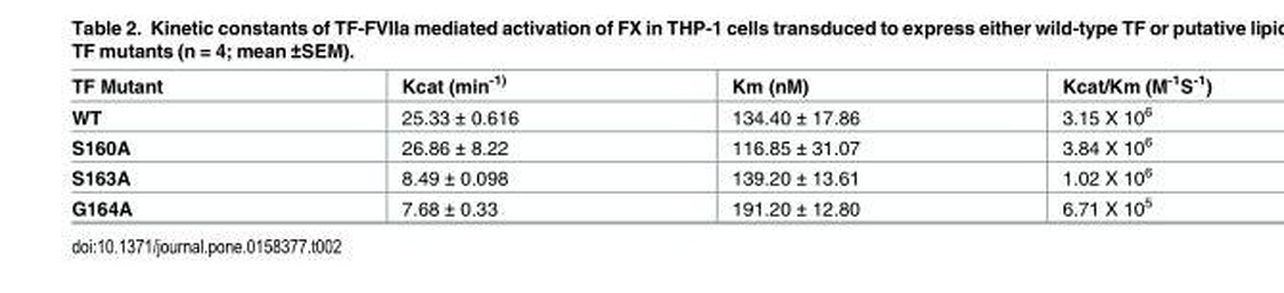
<table><thead><tr><td>TF Mutant</td><td>Kcat (min<sup>-1)</sup></td><td>Km (nM)</td><td>Kcat/Km (M<sup>-1</sup>S<sup>-1</sup>)</td></tr></thead><tbody><tr><td>WT</td><td>25.33 ± 0.616</td><td>134.40 ± 17.86</td><td>3.15 X 10<sup>6</sup></td></tr><tr><td>S160A</td><td>26.86 ± 8.22</td><td>116.85 ± 31.07</td><td>3.84 X 10<sup>6</sup></td></tr><tr><td>S163A</td><td>8.49 ± 0.098</td><td>139.20 ± 13.61</td><td>1.02 X 10<sup>6</sup></td></tr><tr><td>G164A</td><td>7.68 ± 0.33</td><td>191.20 ± 12.80</td><td>6.71 X 10<sup>5</sup></td></tr></tbody></table>